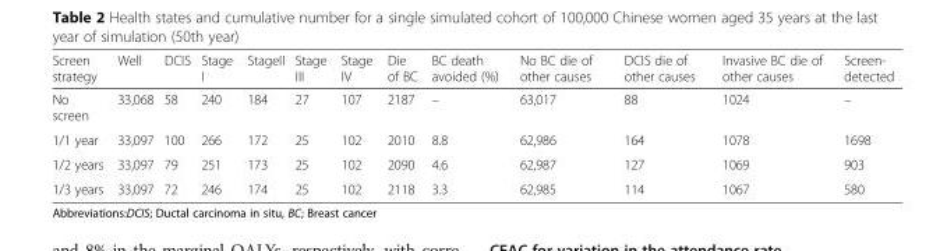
<table><thead><tr><td>Screen strategy</td><td>Well</td><td>DCIS</td><td>Stage I</td><td>StageII</td><td>Stage III</td><td>Stage IV</td><td>Die of BC</td><td>BC death avoided (%)</td><td>No BC die of other causes</td><td>DCIS die of other causes</td><td>Invasive BC die of other causes</td><td>Screen- detected</td></tr></thead><tbody><tr><td>No screen</td><td>33,068</td><td>58</td><td>240</td><td>184</td><td>27</td><td>107</td><td>2187</td><td>–</td><td>63,017</td><td>88</td><td>1024</td><td>–</td></tr><tr><td>1/1 year</td><td>33,097</td><td>100</td><td>266</td><td>172</td><td>25</td><td>102</td><td>2010</td><td>8.8</td><td>62,986</td><td>164</td><td>1078</td><td>1698</td></tr><tr><td>1/2 years</td><td>33,097</td><td>79</td><td>251</td><td>173</td><td>25</td><td>102</td><td>2090</td><td>4.6</td><td>62,987</td><td>127</td><td>1069</td><td>903</td></tr><tr><td>1/3 years</td><td>33,097</td><td>72</td><td>246</td><td>174</td><td>25</td><td>102</td><td>2118</td><td>3.3</td><td>62,985</td><td>114</td><td>1067</td><td>580</td></tr></tbody></table>